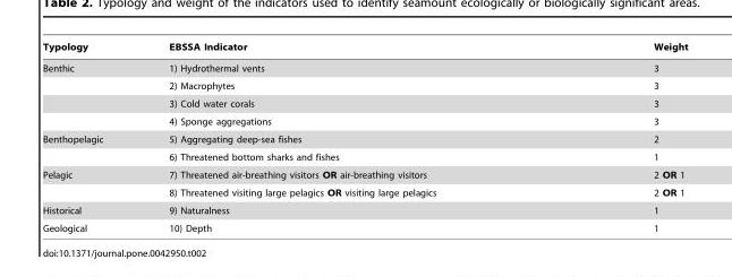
<table><thead><tr><td>Typology</td><td>EBSSA Indicator</td><td>Weight</td></tr></thead><tbody><tr><td rowspan="4">Benthic</td><td>1) Hydrothermal vents</td><td>3</td></tr><tr><td>2) Macrophytes</td><td>3</td></tr><tr><td>3) Cold water corals</td><td>3</td></tr><tr><td>4) Sponge aggregations</td><td>3</td></tr><tr><td rowspan="2">Benthopelagic</td><td>5) Aggregating deep-sea fishes</td><td>2</td></tr><tr><td>6) Threatened bottom sharks and fishes</td><td>1</td></tr><tr><td rowspan="2">Pelagic</td><td>7) Threatened air-breathing visitors OR air-breathing visitors</td><td>2 OR 1</td></tr><tr><td>8) Threatened visiting large pelagics OR visiting large pelagics</td><td>2 OR 1</td></tr><tr><td>Historical</td><td>9) Naturalness</td><td>1</td></tr><tr><td>Geological</td><td>10) Depth</td><td>1</td></tr></tbody></table>